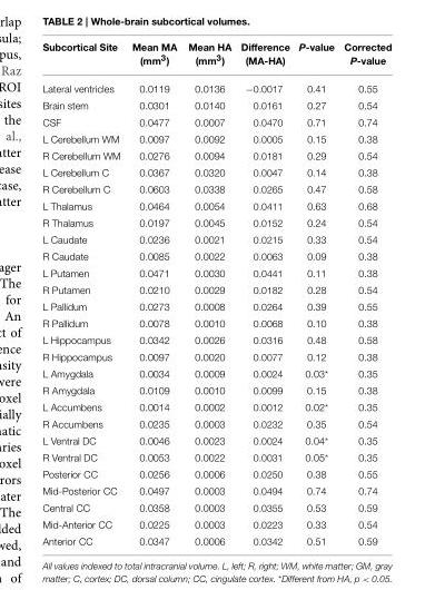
<table><thead><tr><td>Subcortical Site</td><td>Mean MA (mm<sup>3</sup>)</td><td>Mean HA (mm<sup>3</sup>)</td><td>Difference (MA-HA)</td><td>P-value</td><td>Corrected P-value</td></tr></thead><tbody><tr><td>Lateral ventricles</td><td>0.0119</td><td>0.0136</td><td>−0.0017</td><td>0.41</td><td>0.55</td></tr><tr><td>Brain stem</td><td>0.0301</td><td>0.0140</td><td>0.0161</td><td>0.27</td><td>0.54</td></tr><tr><td>CSF</td><td>0.0477</td><td>0.0007</td><td>0.0470</td><td>0.71</td><td>0.74</td></tr><tr><td>L Cerebellum WM</td><td>0.0097</td><td>0.0092</td><td>0.0005</td><td>0.15</td><td>0.38</td></tr><tr><td>R Cerebellum WM</td><td>0.0276</td><td>0.0094</td><td>0.0181</td><td>0.29</td><td>0.54</td></tr><tr><td>L Cerebellum C</td><td>0.0367</td><td>0.0320</td><td>0.0047</td><td>0.14</td><td>0.38</td></tr><tr><td>R Cerebellum C</td><td>0.0603</td><td>0.0338</td><td>0.0265</td><td>0.47</td><td>0.58</td></tr><tr><td>L Thalamus</td><td>0.0464</td><td>0.0054</td><td>0.0411</td><td>0.63</td><td>0.68</td></tr><tr><td>R Thalamus</td><td>0.0197</td><td>0.0045</td><td>0.0152</td><td>0.24</td><td>0.54</td></tr><tr><td>L Caudate</td><td>0.0236</td><td>0.0021</td><td>0.0215</td><td>0.33</td><td>0.54</td></tr><tr><td>R Caudate</td><td>0.0085</td><td>0.0022</td><td>0.0063</td><td>0.09</td><td>0.38</td></tr><tr><td>L Putamen</td><td>0.0471</td><td>0.0030</td><td>0.0441</td><td>0.11</td><td>0.38</td></tr><tr><td>R Putamen</td><td>0.0210</td><td>0.0029</td><td>0.0182</td><td>0.28</td><td>0.54</td></tr><tr><td>L Pallidum</td><td>0.0273</td><td>0.0008</td><td>0.0264</td><td>0.39</td><td>0.55</td></tr><tr><td>R Pallidum</td><td>0.0078</td><td>0.0010</td><td>0.0068</td><td>0.10</td><td>0.38</td></tr><tr><td>L Hippocampus</td><td>0.0342</td><td>0.0026</td><td>0.0316</td><td>0.48</td><td>0.58</td></tr><tr><td>R Hippocampus</td><td>0.0097</td><td>0.0020</td><td>0.0077</td><td>0.12</td><td>0.38</td></tr><tr><td>L Amygdala</td><td>0.0034</td><td>0.0009</td><td>0.0024</td><td>0.03*</td><td>0.35</td></tr><tr><td>R Amygdala</td><td>0.0109</td><td>0.0010</td><td>0.0099</td><td>0.15</td><td>0.38</td></tr><tr><td>L Accumbens</td><td>0.0014</td><td>0.0002</td><td>0.0012</td><td>0.02*</td><td>0.35</td></tr><tr><td>R Accumbens</td><td>0.0235</td><td>0.0003</td><td>0.0232</td><td>0.35</td><td>0.54</td></tr><tr><td>L Ventral DC</td><td>0.0046</td><td>0.0023</td><td>0.0024</td><td>0.04*</td><td>0.35</td></tr><tr><td>R Ventral DC</td><td>0.0053</td><td>0.0022</td><td>0.0031</td><td>0.05*</td><td>0.35</td></tr><tr><td>Posterior CC</td><td>0.0256</td><td>0.0006</td><td>0.0250</td><td>0.38</td><td>0.55</td></tr><tr><td>Mid-Posterior CC</td><td>0.0497</td><td>0.0003</td><td>0.0494</td><td>0.74</td><td>0.74</td></tr><tr><td>Central CC</td><td>0.0358</td><td>0.0003</td><td>0.0355</td><td>0.53</td><td>0.59</td></tr><tr><td>Mid-Anterior CC</td><td>0.0225</td><td>0.0003</td><td>0.0223</td><td>0.33</td><td>0.54</td></tr><tr><td>Anterior CC</td><td>0.0347</td><td>0.0006</td><td>0.0342</td><td>0.51</td><td>0.59</td></tr></tbody></table>